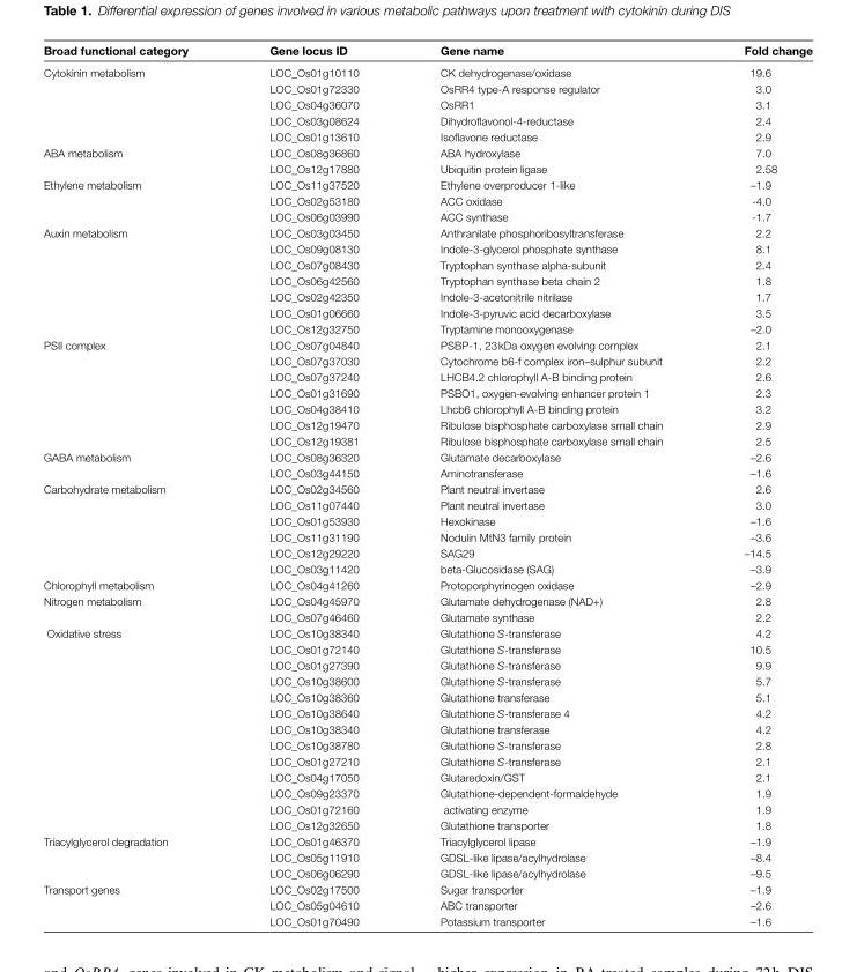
<table><thead><tr><td>Broad functional category</td><td>Gene locus ID</td><td>Gene name</td><td>Fold change</td></tr></thead><tbody><tr><td rowspan="5">Cytokinin metabolism</td><td>LOC_Os01g10110</td><td>CK dehydrogenase/oxidase</td><td>19.6</td></tr><tr><td>LOC_Os01g72330</td><td>OsRR4 type-A response regulator</td><td>3.0</td></tr><tr><td>LOC_Os04g36070</td><td>OsRR1</td><td>3.1</td></tr><tr><td>LOC_Os03g08624</td><td>Dihydroflavonol-4-reductase</td><td>2.4</td></tr><tr><td>LOC_Os01g13610</td><td>Isoflavone reductase</td><td>2.9</td></tr><tr><td rowspan="2">ABA metabolism</td><td>LOC_Os08g36860</td><td>ABA hydroxylase</td><td>7.0</td></tr><tr><td>LOC_Os12g17880</td><td>Ubiquitin protein ligase</td><td>2.58</td></tr><tr><td rowspan="3">Ethylene metabolism</td><td>LOC_Os11g37520</td><td>Ethylene overproducer 1-like</td><td>–1.9</td></tr><tr><td>LOC_Os02g53180</td><td>ACC oxidase</td><td>-4.0</td></tr><tr><td>LOC_Os06g03990</td><td>ACC synthase</td><td>-1.7</td></tr><tr><td rowspan="7">Auxin metabolism</td><td>LOC_Os03g03450</td><td>Anthranilate phosphoribosyltransferase</td><td>2.2</td></tr><tr><td>LOC_Os09g08130</td><td>Indole-3-glycerol phosphate synthase</td><td>8.1</td></tr><tr><td>LOC_Os07g08430</td><td>Tryptophan synthase alpha-subunit</td><td>2.4</td></tr><tr><td>LOC_Os06g42560</td><td>Tryptophan synthase beta chain 2</td><td>1.8</td></tr><tr><td>LOC_Os02g42350</td><td>Indole-3-acetonitrile nitrilase</td><td>1.7</td></tr><tr><td>LOC_Os01g06660</td><td>Indole-3-pyruvic acid decarboxylase</td><td>3.5</td></tr><tr><td>LOC_Os12g32750</td><td>Tryptamine monooxygenase</td><td>–2.0</td></tr><tr><td rowspan="7">PSII complex</td><td>LOC_Os07g04840</td><td>PSBP-1, 23 kDa oxygen evolving complex</td><td>2.1</td></tr><tr><td>LOC_Os07g37030</td><td>Cytochrome b6-f complex iron–sulphur subunit</td><td>2.2</td></tr><tr><td>LOC_Os07g37240</td><td>LHCB4.2 chlorophyll A-B binding protein</td><td>2.6</td></tr><tr><td>LOC_Os01g31690</td><td>PSBO1, oxygen-evolving enhancer protein 1</td><td>2.3</td></tr><tr><td>LOC_Os04g38410</td><td>Lhcb6 chlorophyll A-B binding protein</td><td>3.2</td></tr><tr><td>LOC_Os12g19470</td><td>Ribulose bisphosphate carboxylase small chain</td><td>2.9</td></tr><tr><td>LOC_Os12g19381</td><td>Ribulose bisphosphate carboxylase small chain</td><td>2.5</td></tr><tr><td rowspan="2">GABA metabolism</td><td>LOC_Os08g36320</td><td>Glutamate decarboxylase</td><td>–2.6</td></tr><tr><td>LOC_Os03g44150</td><td>Aminotransferase</td><td>–1.6</td></tr><tr><td rowspan="6">Carbohydrate metabolism</td><td>LOC_Os02g34560</td><td>Plant neutral invertase</td><td>2.6</td></tr><tr><td>LOC_Os11g07440</td><td>Plant neutral invertase</td><td>3.0</td></tr><tr><td>LOC_Os01g53930</td><td>Hexokinase</td><td>–1.6</td></tr><tr><td>LOC_Os11g31190</td><td>Nodulin MtN3 family protein</td><td>–3.6</td></tr><tr><td>LOC_Os12g29220</td><td>SAG29</td><td>–14.5</td></tr><tr><td>LOC_Os03g11420</td><td>beta-Glucosidase (SAG)</td><td>–3.9</td></tr><tr><td>Chlorophyll metabolism</td><td>LOC_Os04g41260</td><td>Protoporphyrinogen oxidase</td><td>–2.9</td></tr><tr><td rowspan="2">Nitrogen metabolism</td><td>LOC_Os04g45970</td><td>Glutamate dehydrogenase (NAD+)</td><td>2.8</td></tr><tr><td>LOC_Os07g46460</td><td>Glutamate synthase</td><td>2.2</td></tr><tr><td rowspan="13">Oxidative stress</td><td>LOC_Os10g38340</td><td>Glutathione S-transferase</td><td>4.2</td></tr><tr><td>LOC_Os01g72140</td><td>Glutathione S-transferase</td><td>10.5</td></tr><tr><td>LOC_Os01g27390</td><td>Glutathione S-transferase</td><td>9.9</td></tr><tr><td>LOC_Os10g38600</td><td>Glutathione S-transferase</td><td>5.7</td></tr><tr><td>LOC_Os10g38360</td><td>Glutathione transferase</td><td>5.1</td></tr><tr><td>LOC_Os10g38640</td><td>Glutathione S-transferase 4</td><td>4.2</td></tr><tr><td>LOC_Os10g38340</td><td>Glutathione transferase</td><td>4.2</td></tr><tr><td>LOC_Os10g38780</td><td>Glutathione S-transferase</td><td>2.8</td></tr><tr><td>LOC_Os01g27210</td><td>Glutathione S-transferase</td><td>2.1</td></tr><tr><td>LOC_Os04g17050</td><td>Glutaredoxin/GST</td><td>2.1</td></tr><tr><td>LOC_Os09g23370</td><td>Glutathione-dependent-formaldehyde</td><td>1.9</td></tr><tr><td>LOC_Os01g72160</td><td>activating enzyme</td><td>1.9</td></tr><tr><td>LOC_Os12g32650</td><td>Glutathione transporter</td><td>1.8</td></tr><tr><td rowspan="3">Triacylglycerol degradation</td><td>LOC_Os01g46370</td><td>Triacylglycerol lipase</td><td>–1.9</td></tr><tr><td>LOC_Os05g11910</td><td>GDSL-like lipase/acylhydrolase</td><td>–8.4</td></tr><tr><td>LOC_Os06g06290</td><td>GDSL-like lipase/acylhydrolase</td><td>–9.5</td></tr><tr><td rowspan="3">Transport genes</td><td>LOC_Os02g17500</td><td>Sugar transporter</td><td>–1.9</td></tr><tr><td>LOC_Os05g04610</td><td>ABC transporter</td><td>–2.6</td></tr><tr><td>LOC_Os01g70490</td><td>Potassium transporter</td><td>–1.6</td></tr></tbody></table>